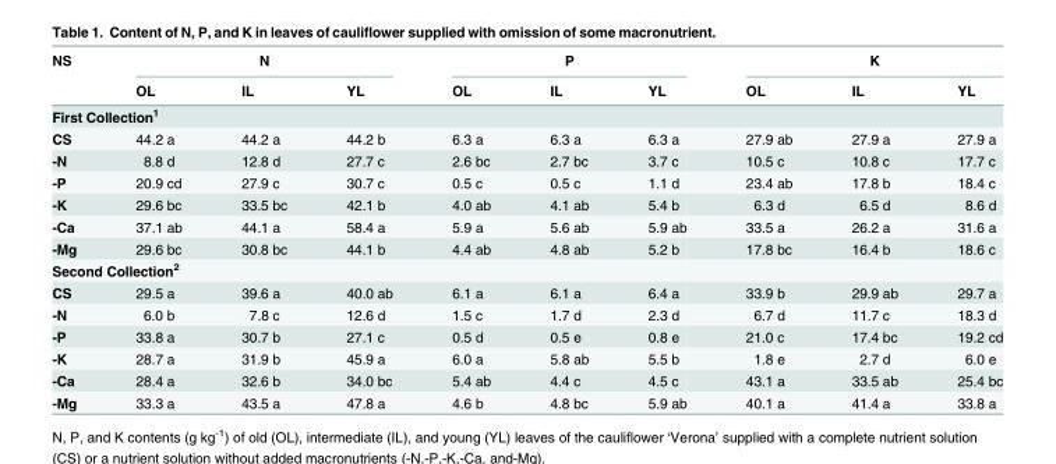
<table><thead><tr><td rowspan="2">NS</td><td colspan="3">N</td><td colspan="3">P</td><td colspan="3">K</td></tr><tr><td>OL</td><td>IL</td><td>YL</td><td>OL</td><td>IL</td><td>YL</td><td>OL</td><td>IL</td><td>YL</td></tr></thead><tbody><tr><td colspan="10">First Collection<sup>1</sup></td></tr><tr><td>CS</td><td>44.2 a</td><td>44.2 a</td><td>44.2 b</td><td>6.3 a</td><td>6.3 a</td><td>6.3 a</td><td>27.9 ab</td><td>27.9 a</td><td>27.9 a</td></tr><tr><td>-N</td><td>8.8 d</td><td>12.8 d</td><td>27.7 c</td><td>2.6 bc</td><td>2.7 bc</td><td>3.7 c</td><td>10.5 c</td><td>10.8 c</td><td>17.7 c</td></tr><tr><td>-P</td><td>20.9 cd</td><td>27.9 c</td><td>30.7 c</td><td>0.5 c</td><td>0.5 c</td><td>1.1 d</td><td>23.4 ab</td><td>17.8 b</td><td>18.4 c</td></tr><tr><td>-K</td><td>29.6 bc</td><td>33.5 bc</td><td>42.1 b</td><td>4.0 ab</td><td>4.1 ab</td><td>5.4 b</td><td>6.3 d</td><td>6.5 d</td><td>8.6 d</td></tr><tr><td>-Ca</td><td>37.1 ab</td><td>44.1 a</td><td>58.4 a</td><td>5.9 a</td><td>5.6 ab</td><td>5.9 ab</td><td>33.5 a</td><td>26.2 a</td><td>31.6 a</td></tr><tr><td>-Mg</td><td>29.6 bc</td><td>30.8 bc</td><td>44.1 b</td><td>4.4 ab</td><td>4.8 ab</td><td>5.2 b</td><td>17.8 bc</td><td>16.4 b</td><td>18.6 c</td></tr><tr><td colspan="10">Second Collection<sup>2</sup></td></tr><tr><td>CS</td><td>29.5 a</td><td>39.6 a</td><td>40.0 ab</td><td>6.1 a</td><td>6.1 a</td><td>6.4 a</td><td>33.9 b</td><td>29.9 ab</td><td>29.7 a</td></tr><tr><td>-N</td><td>6.0 b</td><td>7.8 c</td><td>12.6 d</td><td>1.5 c</td><td>1.7 d</td><td>2.3 d</td><td>6.7 d</td><td>11.7 c</td><td>18.3 d</td></tr><tr><td>-P</td><td>33.8 a</td><td>30.7 b</td><td>27.1 c</td><td>0.5 d</td><td>0.5 e</td><td>0.8 e</td><td>21.0 c</td><td>17.4 bc</td><td>19.2 cd</td></tr><tr><td>-K</td><td>28.7 a</td><td>31.9 b</td><td>45.9 a</td><td>6.0 a</td><td>5.8 ab</td><td>5.5 b</td><td>1.8 e</td><td>2.7 d</td><td>6.0 e</td></tr><tr><td>-Ca</td><td>28.4 a</td><td>32.6 b</td><td>34.0 bc</td><td>5.4 ab</td><td>4.4 c</td><td>4.5 c</td><td>43.1 a</td><td>33.5 ab</td><td>25.4 bc</td></tr><tr><td>-Mg</td><td>33.3 a</td><td>43.5 a</td><td>47.8 a</td><td>4.6 b</td><td>4.8 bc</td><td>5.9 ab</td><td>40.1 a</td><td>41.4 a</td><td>33.8 a</td></tr></tbody></table>